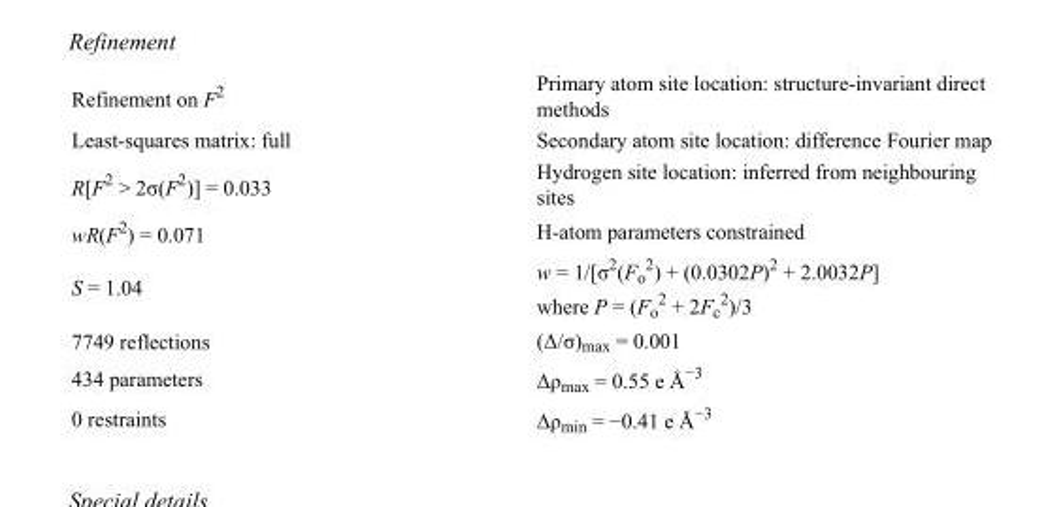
<table><tbody><tr><td>Refinement on F<sup>2</sup></td><td>Primary atom site location: structure-invariant direct methods</td></tr><tr><td>Least-squares matrix: full</td><td>Secondary atom site location: difference Fourier map</td></tr><tr><td>R[F<sup>2</sup> &gt; 2σ(F<sup>2</sup>)] = 0.033</td><td>Hydrogen site location: inferred from neighbouring sites</td></tr><tr><td>wR(F<sup>2</sup>) = 0.071</td><td>H-atom parameters constrained</td></tr><tr><td>S = 1.04</td><td>w = 1/[σ<sup>2</sup>(F<sub>o</sub> <sup>2</sup>) + (0.0302P)<sup>2</sup> + 2.0032P] where P = (F<sub>o</sub> <sup>2</sup> + 2F<sub>c</sub> <sup>2</sup>)/3</td></tr><tr><td>7749 reflections</td><td>(Δ/σ)<sub>max</sub> = 0.001</td></tr><tr><td>434 parameters</td><td>Δρ<sub>max</sub> = 0.55 e Å<sup>−3</sup></td></tr><tr><td>0 restraints</td><td>Δρ<sub>min</sub> = −0.41 e Å<sup>−3</sup></td></tr></tbody></table>